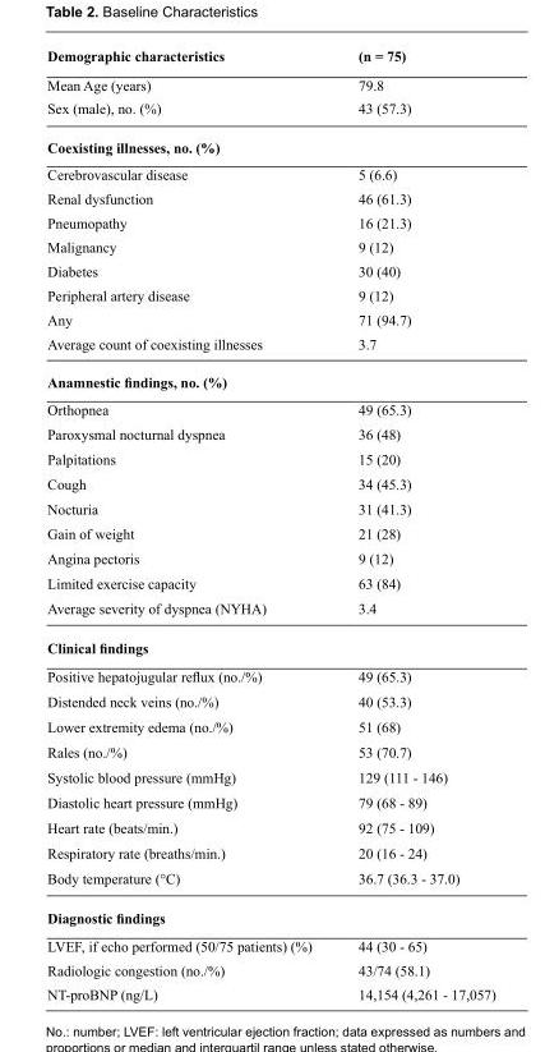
<table><tbody><tr><td>Demographic characteristics</td><td>(n = 75)</td></tr><tr><td>Mean Age (years)</td><td>79.8</td></tr><tr><td>Sex (male), no. (%)</td><td>43 (57.3)</td></tr><tr><td colspan="2">Coexisting illnesses, no. (%)</td></tr><tr><td>Cerebrovascular disease</td><td>5 (6.6)</td></tr><tr><td>Renal dysfunction</td><td>46 (61.3)</td></tr><tr><td>Pneumopathy</td><td>16 (21.3)</td></tr><tr><td>Malignancy</td><td>9 (12)</td></tr><tr><td>Diabetes</td><td>30 (40)</td></tr><tr><td>Peripheral artery disease</td><td>9 (12)</td></tr><tr><td>Any</td><td>71 (94.7)</td></tr><tr><td>Average count of coexisting illnesses</td><td>3.7</td></tr><tr><td colspan="2">Anamnestic findings, no. (%)</td></tr><tr><td>Orthopnea</td><td>49 (65.3)</td></tr><tr><td>Paroxysmal nocturnal dyspnea</td><td>36 (48)</td></tr><tr><td>Palpitations</td><td>15 (20)</td></tr><tr><td>Cough</td><td>34 (45.3)</td></tr><tr><td>Nocturia</td><td>31 (41.3)</td></tr><tr><td>Gain of weight</td><td>21 (28)</td></tr><tr><td>Angina pectoris</td><td>9 (12)</td></tr><tr><td>Limited exercise capacity</td><td>63 (84)</td></tr><tr><td>Average severity of dyspnea (NYHA)</td><td>3.4</td></tr><tr><td colspan="2">Clinical findings</td></tr><tr><td>Positive hepatojugular reflux (no./%)</td><td>49 (65.3)</td></tr><tr><td>Distended neck veins (no./%)</td><td>40 (53.3)</td></tr><tr><td>Lower extremity edema (no./%)</td><td>51 (68)</td></tr><tr><td>Rales (no./%)</td><td>53 (70.7)</td></tr><tr><td>Systolic blood pressure (mmHg)</td><td>129 (111 - 146)</td></tr><tr><td>Diastolic heart pressure (mmHg)</td><td>79 (68 - 89)</td></tr><tr><td>Heart rate (beats/min.)</td><td>92 (75 - 109)</td></tr><tr><td>Respiratory rate (breaths/min.)</td><td>20 (16 - 24)</td></tr><tr><td>Body temperature (°C)</td><td>36.7 (36.3 - 37.0)</td></tr><tr><td colspan="2">Diagnostic findings</td></tr><tr><td>LVEF, if echo performed (50/75 patients) (%)</td><td>44 (30 - 65)</td></tr><tr><td>Radiologic congestion (no./%)</td><td>43/74 (58.1)</td></tr><tr><td>NT-proBNP (ng/L)</td><td>14,154 (4,261 - 17,057)</td></tr></tbody></table>